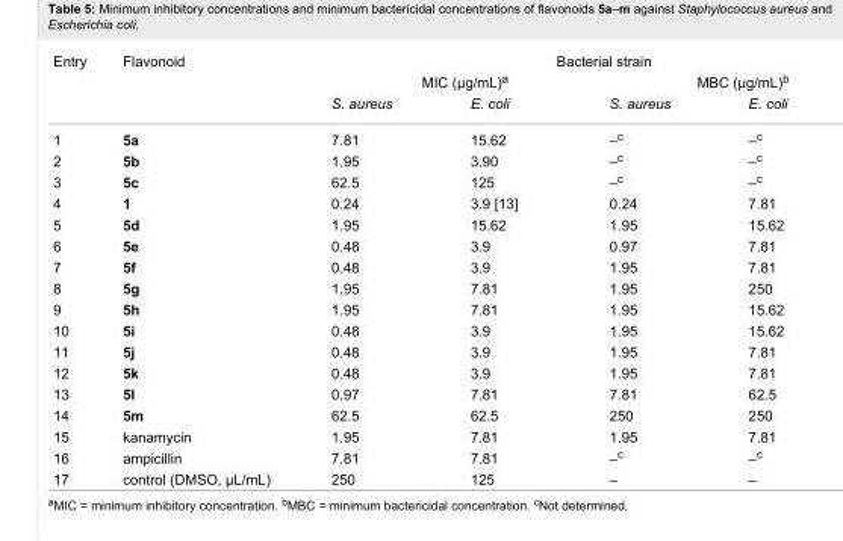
<table><tbody><tr><td rowspan="3">Entry</td><td rowspan="3">Flavonoid</td><td colspan="4">Bacterial strain</td></tr><tr><td colspan="2">MIC (μg/mL)<sup>a</sup></td><td colspan="2">MBC (μg/mL)<sup>b</sup></td></tr><tr><td>S. aureus</td><td>E. coli</td><td>S. aureus</td><td>E. coli</td></tr><tr><td>1</td><td>5a</td><td>7.81</td><td>15.62</td><td>–<sup>c</sup></td><td>–<sup>c</sup></td></tr><tr><td>2</td><td>5b</td><td>1.95</td><td>3.90</td><td>–<sup>c</sup></td><td>–<sup>c</sup></td></tr><tr><td>3</td><td>5c</td><td>62.5</td><td>125</td><td>–<sup>c</sup></td><td>–<sup>c</sup></td></tr><tr><td>4</td><td>1</td><td>0.24</td><td>3.9 [13]</td><td>0.24</td><td>7.81</td></tr><tr><td>5</td><td>5d</td><td>1.95</td><td>15.62</td><td>1.95</td><td>15.62</td></tr><tr><td>6</td><td>5e</td><td>0.48</td><td>3.9</td><td>0.97</td><td>7.81</td></tr><tr><td>7</td><td>5f</td><td>0.48</td><td>3.9</td><td>1.95</td><td>7.81</td></tr><tr><td>8</td><td>5g</td><td>1.95</td><td>7.81</td><td>1.95</td><td>250</td></tr><tr><td>9</td><td>5h</td><td>1.95</td><td>7.81</td><td>1.95</td><td>15.62</td></tr><tr><td>10</td><td>5i</td><td>0.48</td><td>3.9</td><td>1.95</td><td>15.62</td></tr><tr><td>11</td><td>5j</td><td>0.48</td><td>3.9</td><td>1.95</td><td>7.81</td></tr><tr><td>12</td><td>5k</td><td>0.48</td><td>3.9</td><td>1.95</td><td>7.81</td></tr><tr><td>13</td><td>5l</td><td>0.97</td><td>7.81</td><td>7.81</td><td>62.5</td></tr><tr><td>14</td><td>5m</td><td>62.5</td><td>62.5</td><td>250</td><td>250</td></tr><tr><td>15</td><td>kanamycin</td><td>1.95</td><td>7.81</td><td>1.95</td><td>7.81</td></tr><tr><td>16</td><td>ampicillin</td><td>7.81</td><td>7.81</td><td>–<sup>c</sup></td><td>–<sup>c</sup></td></tr><tr><td>17</td><td>control (DMSO, μL/mL)</td><td>250</td><td>125</td><td>–</td><td>–</td></tr></tbody></table>